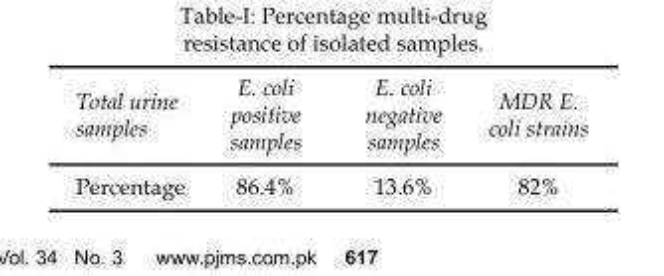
<table><thead><tr><td>Total urine samples</td><td>E. coli positive samples</td><td>E. coli negative samples</td><td>MDR E. coli strains</td></tr></thead><tbody><tr><td>Percentage</td><td>86.4%</td><td>13.6%</td><td>82%</td></tr></tbody></table>